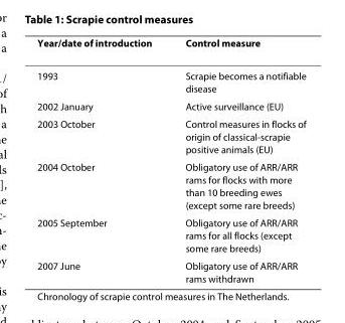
<table><thead><tr><td>Year/date of introduction</td><td>Control measure</td></tr></thead><tbody><tr><td>1993</td><td>Scrapie becomes a notifiable disease</td></tr><tr><td>2002 January</td><td>Active surveillance (EU)</td></tr><tr><td>2003 October</td><td>Control measures in flocks of origin of classical-scrapie positive animals (EU)</td></tr><tr><td>2004 October</td><td>Obligatory use of ARR/ARR rams for flocks with more than 10 breeding ewes (except some rare breeds)</td></tr><tr><td>2005 September</td><td>Obligatory use of ARR/ARR rams for all flocks (except some rare breeds)</td></tr><tr><td>2007 June</td><td>Obligatory use of ARR/ARR rams withdrawn</td></tr></tbody></table>